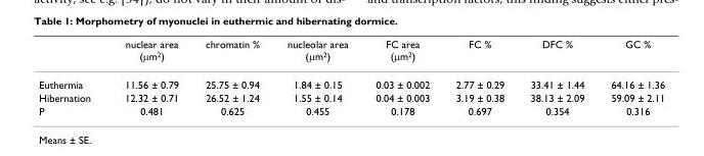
<table><thead><tr><td></td><td>nuclear area (μm<sup>2</sup>)</td><td>chromatin %</td><td>nucleolar area (μm<sup>2</sup>)</td><td>FC area (μm<sup>2</sup>)</td><td>FC %</td><td>DFC %</td><td>GC %</td></tr></thead><tbody><tr><td>Euthermia</td><td>11.56 ± 0.79</td><td>25.75 ± 0.94</td><td>1.84 ± 0.15</td><td>0.03 ± 0.002</td><td>2.77 ± 0.29</td><td>33.41 ± 1.44</td><td>64.16 ± 1.36</td></tr><tr><td>Hibernation</td><td>12.32 ± 0.71</td><td>26.52 ± 1.24</td><td>1.55 ± 0.14</td><td>0.04 ± 0.003</td><td>3.19 ± 0.38</td><td>38.13 ± 2.09</td><td>59.09 ± 2.11</td></tr><tr><td>P</td><td>0.481</td><td>0.625</td><td>0.455</td><td>0.178</td><td>0.697</td><td>0.354</td><td>0.316</td></tr></tbody></table>